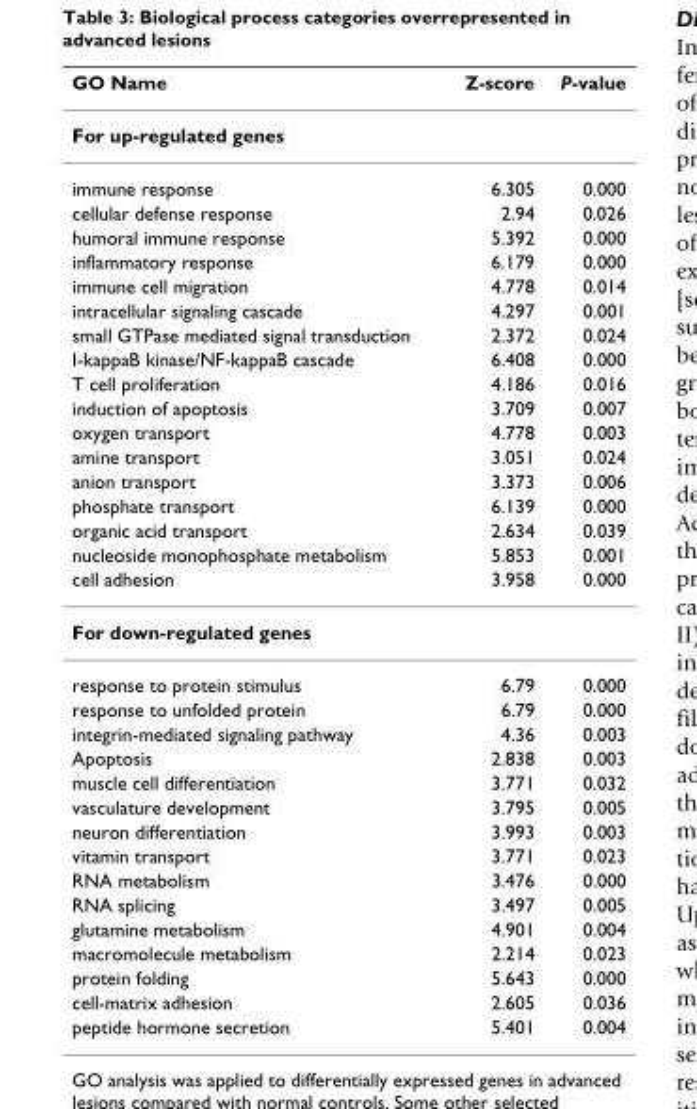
<table><thead><tr><td>GO Name</td><td>Z-score</td><td>P-value</td></tr></thead><tbody><tr><td colspan="3">For up-regulated genes</td></tr><tr><td>immune response</td><td>6.305</td><td>0.000</td></tr><tr><td>cellular defense response</td><td>2.94</td><td>0.026</td></tr><tr><td>humoral immune response</td><td>5.392</td><td>0.000</td></tr><tr><td>inflammatory response</td><td>6.179</td><td>0.000</td></tr><tr><td>immune cell migration</td><td>4.778</td><td>0.014</td></tr><tr><td>intracellular signaling cascade</td><td>4.297</td><td>0.001</td></tr><tr><td>small GTPase mediated signal transduction</td><td>2.372</td><td>0.024</td></tr><tr><td>I-kappaB kinase/NF-kappaB cascade</td><td>6.408</td><td>0.000</td></tr><tr><td>T cell proliferation</td><td>4.186</td><td>0.016</td></tr><tr><td>induction of apoptosis</td><td>3.709</td><td>0.007</td></tr><tr><td>oxygen transport</td><td>4.778</td><td>0.003</td></tr><tr><td>amine transport</td><td>3.051</td><td>0.024</td></tr><tr><td>anion transport</td><td>3.373</td><td>0.006</td></tr><tr><td>phosphate transport</td><td>6.139</td><td>0.000</td></tr><tr><td>organic acid transport</td><td>2.634</td><td>0.039</td></tr><tr><td>nucleoside monophosphate metabolism</td><td>5.853</td><td>0.001</td></tr><tr><td>cell adhesion</td><td>3.958</td><td>0.000</td></tr><tr><td colspan="3">For down-regulated genes</td></tr><tr><td>response to protein stimulus</td><td>6.79</td><td>0.000</td></tr><tr><td>response to unfolded protein</td><td>6.79</td><td>0.000</td></tr><tr><td>integrin-mediated signaling pathway</td><td>4.36</td><td>0.003</td></tr><tr><td>Apoptosis</td><td>2.838</td><td>0.003</td></tr><tr><td>muscle cell differentiation</td><td>3.771</td><td>0.032</td></tr><tr><td>vasculature development</td><td>3.795</td><td>0.005</td></tr><tr><td>neuron differentiation</td><td>3.993</td><td>0.003</td></tr><tr><td>vitamin transport</td><td>3.771</td><td>0.023</td></tr><tr><td>RNA metabolism</td><td>3.476</td><td>0.000</td></tr><tr><td>RNA splicing</td><td>3.497</td><td>0.005</td></tr><tr><td>glutamine metabolism</td><td>4.901</td><td>0.004</td></tr><tr><td>macromolecule metabolism</td><td>2.214</td><td>0.023</td></tr><tr><td>protein folding</td><td>5.643</td><td>0.000</td></tr><tr><td>cell-matrix adhesion</td><td>2.605</td><td>0.036</td></tr><tr><td>peptide hormone secretion</td><td>5.401</td><td>0.004</td></tr></tbody></table>